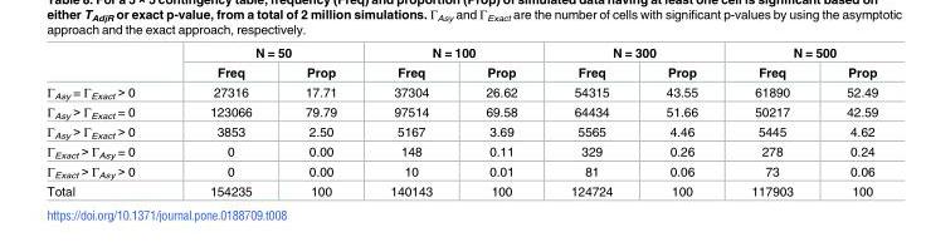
<table><thead><tr><td rowspan="2"></td><td colspan="2">N = 50</td><td colspan="2">N = 100</td><td colspan="2">N = 300</td><td colspan="2">N = 500</td></tr><tr><td>Freq</td><td>Prop</td><td>Freq</td><td>Prop</td><td>Freq</td><td>Prop</td><td>Freq</td><td>Prop</td></tr></thead><tbody><tr><td>Γ<sub>Asy</sub> = Γ<sub>Exact</sub> &gt; 0</td><td>27316</td><td>17.71</td><td>37304</td><td>26.62</td><td>54315</td><td>43.55</td><td>61890</td><td>52.49</td></tr><tr><td>Γ<sub>Asy</sub> &gt; Γ<sub>Exact</sub> = 0</td><td>123066</td><td>79.79</td><td>97514</td><td>69.58</td><td>64434</td><td>51.66</td><td>50217</td><td>42.59</td></tr><tr><td>Γ<sub>Asy</sub> &gt; Γ<sub>Exact</sub> &gt; 0</td><td>3853</td><td>2.50</td><td>5167</td><td>3.69</td><td>5565</td><td>4.46</td><td>5445</td><td>4.62</td></tr><tr><td>Γ<sub>Exact</sub> &gt; Γ<sub>Asy</sub> = 0</td><td>0</td><td>0.00</td><td>148</td><td>0.11</td><td>329</td><td>0.26</td><td>278</td><td>0.24</td></tr><tr><td>Γ<sub>Exact</sub> &gt; Γ<sub>Asy</sub> &gt; 0</td><td>0</td><td>0.00</td><td>10</td><td>0.01</td><td>81</td><td>0.06</td><td>73</td><td>0.06</td></tr><tr><td>Total</td><td>154235</td><td>100</td><td>140143</td><td>100</td><td>124724</td><td>100</td><td>117903</td><td>100</td></tr></tbody></table>